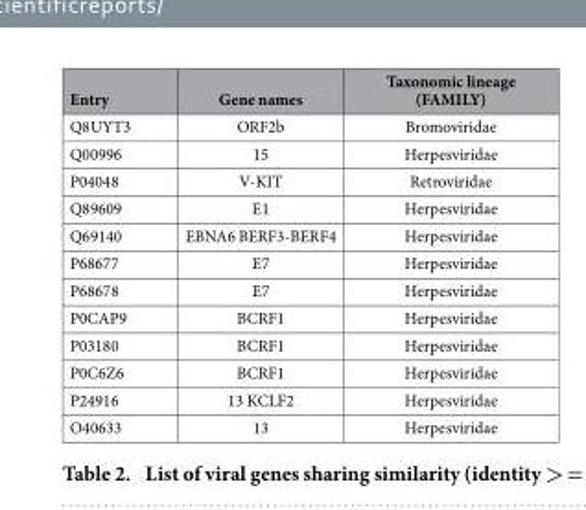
<table><thead><tr><td>Entry</td><td>Gene names</td><td>Taxonomic lineage (FAMILY)</td></tr></thead><tbody><tr><td>Q8UYT3</td><td>ORF2b</td><td>Bromoviridae</td></tr><tr><td>Q00996</td><td>15</td><td>Herpesviridae</td></tr><tr><td>P04048</td><td>V-KIT</td><td>Retroviridae</td></tr><tr><td>Q89609</td><td>E1</td><td>Herpesviridae</td></tr><tr><td>Q69140</td><td>EBNA6 BERF3-BERF4</td><td>Herpesviridae</td></tr><tr><td>P68677</td><td>E7</td><td>Herpesviridae</td></tr><tr><td>P68678</td><td>E7</td><td>Herpesviridae</td></tr><tr><td>P0CAP9</td><td>BCRF1</td><td>Herpesviridae</td></tr><tr><td>P03180</td><td>BCRF1</td><td>Herpesviridae</td></tr><tr><td>P0C6Z6</td><td>BCRF1</td><td>Herpesviridae</td></tr><tr><td>P24916</td><td>13 KCLF2</td><td>Herpesviridae</td></tr><tr><td>O40633</td><td>13</td><td>Herpesviridae</td></tr></tbody></table>